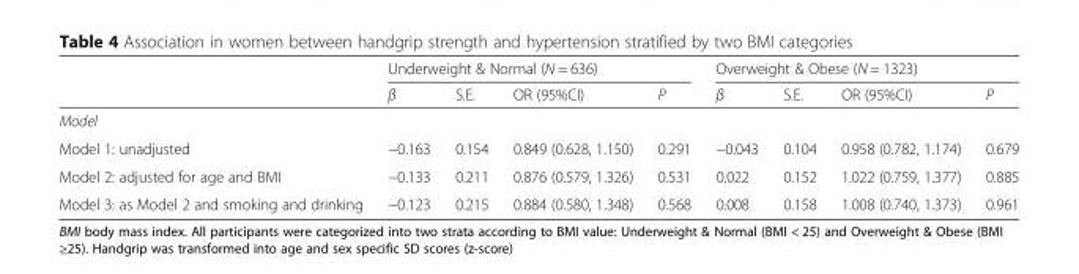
<table><thead><tr><td rowspan="2"></td><td colspan="4">Underweight &amp; Normal (N = 636)</td><td colspan="4">Overweight &amp; Obese (N = 1323)</td></tr><tr><td>β</td><td>S.E.</td><td>OR (95%CI)</td><td>P</td><td>β</td><td>S.E.</td><td>OR (95%CI)</td><td>P</td></tr></thead><tbody><tr><td colspan="9">Model</td></tr><tr><td>Model 1: unadjusted</td><td>−0.163</td><td>0.154</td><td>0.849 (0.628, 1.150)</td><td>0.291</td><td>−0.043</td><td>0.104</td><td>0.958 (0.782, 1.174)</td><td>0.679</td></tr><tr><td>Model 2: adjusted for age and BMI</td><td>−0.133</td><td>0.211</td><td>0.876 (0.579, 1.326)</td><td>0.531</td><td>0.022</td><td>0.152</td><td>1.022 (0.759, 1.377)</td><td>0.885</td></tr><tr><td>Model 3: as Model 2 and smoking and drinking</td><td>−0.123</td><td>0.215</td><td>0.884 (0.580, 1.348)</td><td>0.568</td><td>0.008</td><td>0.158</td><td>1.008 (0.740, 1.373)</td><td>0.961</td></tr></tbody></table>